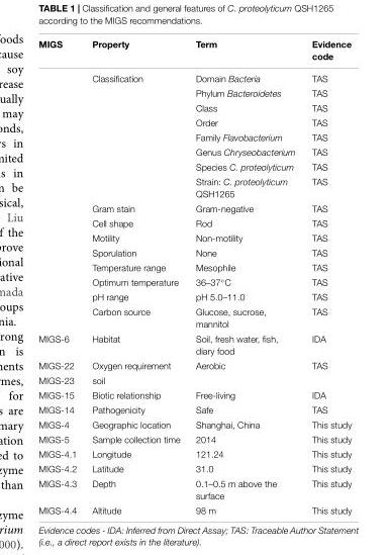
<table><thead><tr><td>MIGS</td><td>Property</td><td>Term</td><td>Evidence code</td></tr></thead><tbody><tr><td></td><td>Classification</td><td>Domain Bacteria</td><td>TAS</td></tr><tr><td></td><td></td><td>Phylum Bacteroidetes</td><td>TAS</td></tr><tr><td></td><td></td><td>Class</td><td>TAS</td></tr><tr><td></td><td></td><td>Order</td><td>TAS</td></tr><tr><td></td><td></td><td>Family Flavobacterium</td><td>TAS</td></tr><tr><td></td><td></td><td>Genus Chryseobacterium</td><td>TAS</td></tr><tr><td></td><td></td><td>Species C. proteolyticum</td><td>TAS</td></tr><tr><td></td><td></td><td>Strain: C. proteolyticum QSH1265</td><td>TAS</td></tr><tr><td></td><td>Gram stain</td><td>Gram-negative</td><td>TAS</td></tr><tr><td></td><td>Cell shape</td><td>Rod</td><td>TAS</td></tr><tr><td></td><td>Motility</td><td>Non-motility</td><td>TAS</td></tr><tr><td></td><td>Sporulation</td><td>None</td><td>TAS</td></tr><tr><td></td><td>Temperature range</td><td>Mesophile</td><td>TAS</td></tr><tr><td></td><td>Optimum temperature</td><td>36–37◦C</td><td>TAS</td></tr><tr><td></td><td>pH range</td><td>pH 5.0–11.0</td><td>TAS</td></tr><tr><td></td><td>Carbon source</td><td>Glucose, sucrose, mannitol</td><td>TAS</td></tr><tr><td>MIGS-6</td><td>Habitat</td><td>Soil, fresh water, fish, diary food</td><td>IDA</td></tr><tr><td>MIGS-22</td><td>Oxygen requirement</td><td>Aerobic</td><td>TAS</td></tr><tr><td>MIGS-23</td><td>soil</td><td></td><td></td></tr><tr><td>MIGS-15</td><td>Biotic relationship</td><td>Free-living</td><td>IDA</td></tr><tr><td>MIGS-14</td><td>Pathogenicity</td><td>Safe</td><td>TAS</td></tr><tr><td>MIGS-4</td><td>Geographic location</td><td>Shanghai, China</td><td>This study</td></tr><tr><td>MIGS-5</td><td>Sample collection time</td><td>2014</td><td>This study</td></tr><tr><td>MIGS-4.1</td><td>Longitude</td><td>121.24</td><td>This study</td></tr><tr><td>MIGS-4.2</td><td>Latitude</td><td>31.0</td><td>This study</td></tr><tr><td>MIGS-4.3</td><td>Depth</td><td>0.1–0.5 m above the surface</td><td>This study</td></tr><tr><td>MIGS-4.4</td><td>Altitude</td><td>98 m</td><td>This study</td></tr></tbody></table>